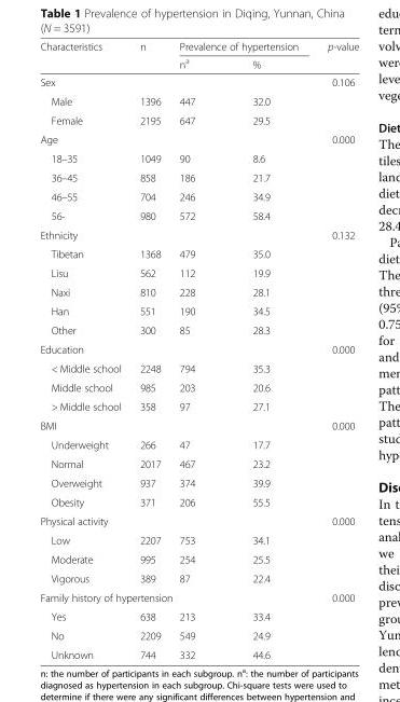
<table><thead><tr><td rowspan="2">Characteristics</td><td rowspan="2">n</td><td colspan="2">Prevalence of hypertension</td><td rowspan="2">p-value</td></tr><tr><td>n<sup>a</sup></td><td>%</td></tr></thead><tbody><tr><td colspan="4">Sex</td><td rowspan="3">0.106</td></tr><tr><td>Male</td><td>1396</td><td>447</td><td>32.0</td></tr><tr><td>Female</td><td>2195</td><td>647</td><td>29.5</td></tr><tr><td colspan="4">Age</td><td rowspan="5">0.000</td></tr><tr><td>18–35</td><td>1049</td><td>90</td><td>8.6</td></tr><tr><td>36–45</td><td>858</td><td>186</td><td>21.7</td></tr><tr><td>46–55</td><td>704</td><td>246</td><td>34.9</td></tr><tr><td>56-</td><td>980</td><td>572</td><td>58.4</td></tr><tr><td colspan="4">Ethnicity</td><td rowspan="6">0.132</td></tr><tr><td>Tibetan</td><td>1368</td><td>479</td><td>35.0</td></tr><tr><td>Lisu</td><td>562</td><td>112</td><td>19.9</td></tr><tr><td>Naxi</td><td>810</td><td>228</td><td>28.1</td></tr><tr><td>Han</td><td>551</td><td>190</td><td>34.5</td></tr><tr><td>Other</td><td>300</td><td>85</td><td>28.3</td></tr><tr><td colspan="4">Education</td><td rowspan="4">0.000</td></tr><tr><td>&lt; Middle school</td><td>2248</td><td>794</td><td>35.3</td></tr><tr><td>Middle school</td><td>985</td><td>203</td><td>20.6</td></tr><tr><td>&gt; Middle school</td><td>358</td><td>97</td><td>27.1</td></tr><tr><td colspan="4">BMI</td><td rowspan="5">0.000</td></tr><tr><td>Underweight</td><td>266</td><td>47</td><td>17.7</td></tr><tr><td>Normal</td><td>2017</td><td>467</td><td>23.2</td></tr><tr><td>Overweight</td><td>937</td><td>374</td><td>39.9</td></tr><tr><td>Obesity</td><td>371</td><td>206</td><td>55.5</td></tr><tr><td colspan="4">Physical activity</td><td rowspan="4">0.000</td></tr><tr><td>Low</td><td>2207</td><td>753</td><td>34.1</td></tr><tr><td>Moderate</td><td>995</td><td>254</td><td>25.5</td></tr><tr><td>Vigorous</td><td>389</td><td>87</td><td>22.4</td></tr><tr><td colspan="4">Family history of hypertension</td><td rowspan="4">0.000</td></tr><tr><td>Yes</td><td>638</td><td>213</td><td>33.4</td></tr><tr><td>No</td><td>2209</td><td>549</td><td>24.9</td></tr><tr><td>Unknown</td><td>744</td><td>332</td><td>44.6</td></tr></tbody></table>